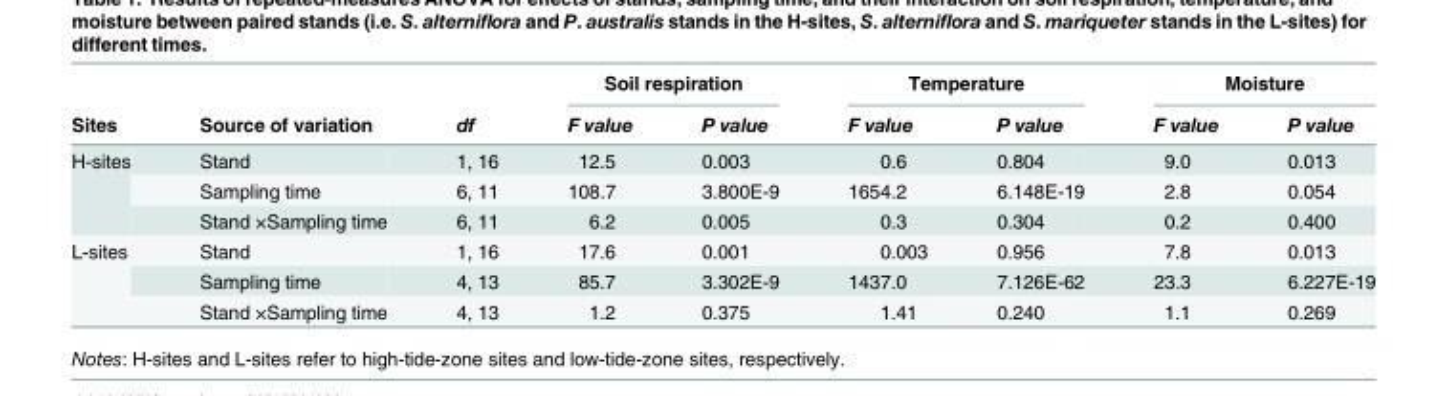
<table><thead><tr><td rowspan="2">Sites</td><td rowspan="2">Source of variation</td><td rowspan="2">df</td><td colspan="2">Soil respiration</td><td colspan="2">Temperature</td><td colspan="2">Moisture</td></tr><tr><td>F value</td><td>P value</td><td>F value</td><td>P value</td><td>F value</td><td>P value</td></tr></thead><tbody><tr><td rowspan="3">H-sites</td><td>Stand</td><td>1, 16</td><td>12.5</td><td>0.003</td><td>0.6</td><td>0.804</td><td>9.0</td><td>0.013</td></tr><tr><td>Sampling time</td><td>6, 11</td><td>108.7</td><td>3.800E-9</td><td>1654.2</td><td>6.148E-19</td><td>2.8</td><td>0.054</td></tr><tr><td>Stand ×Sampling time</td><td>6, 11</td><td>6.2</td><td>0.005</td><td>0.3</td><td>0.304</td><td>0.2</td><td>0.400</td></tr><tr><td rowspan="3">L-sites</td><td>Stand</td><td>1, 16</td><td>17.6</td><td>0.001</td><td>0.003</td><td>0.956</td><td>7.8</td><td>0.013</td></tr><tr><td>Sampling time</td><td>4, 13</td><td>85.7</td><td>3.302E-9</td><td>1437.0</td><td>7.126E-62</td><td>23.3</td><td>6.227E-19</td></tr><tr><td>Stand ×Sampling time</td><td>4, 13</td><td>1.2</td><td>0.375</td><td>1.41</td><td>0.240</td><td>1.1</td><td>0.269</td></tr></tbody></table>